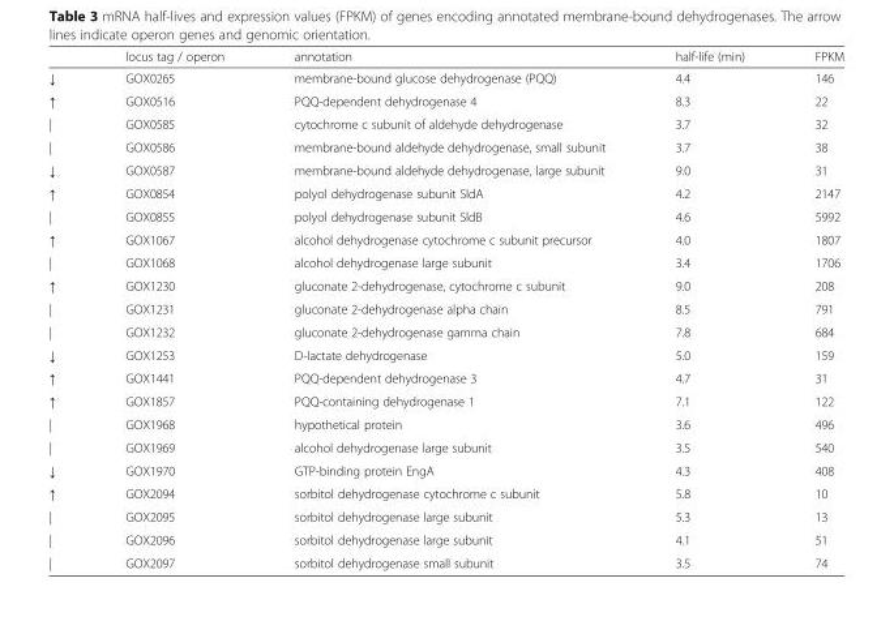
<table><thead><tr><td></td><td>locus tag / operon</td><td>annotation</td><td>half-life (min)</td><td>FPKM</td></tr></thead><tbody><tr><td>↓</td><td>GOX0265</td><td>membrane-bound glucose dehydrogenase (PQQ)</td><td>4.4</td><td>146</td></tr><tr><td>↑</td><td>GOX0516</td><td>PQQ-dependent dehydrogenase 4</td><td>8.3</td><td>22</td></tr><tr><td>|</td><td>GOX0585</td><td>cytochrome c subunit of aldehyde dehydrogenase</td><td>3.7</td><td>32</td></tr><tr><td>|</td><td>GOX0586</td><td>membrane-bound aldehyde dehydrogenase, small subunit</td><td>3.7</td><td>38</td></tr><tr><td>↓</td><td>GOX0587</td><td>membrane-bound aldehyde dehydrogenase, large subunit</td><td>9.0</td><td>31</td></tr><tr><td>↑</td><td>GOX0854</td><td>polyol dehydrogenase subunit SldA</td><td>4.2</td><td>2147</td></tr><tr><td>|</td><td>GOX0855</td><td>polyol dehydrogenase subunit SldB</td><td>4.6</td><td>5992</td></tr><tr><td>↑</td><td>GOX1067</td><td>alcohol dehydrogenase cytochrome c subunit precursor</td><td>4.0</td><td>1807</td></tr><tr><td>|</td><td>GOX1068</td><td>alcohol dehydrogenase large subunit</td><td>3.4</td><td>1706</td></tr><tr><td>↑</td><td>GOX1230</td><td>gluconate 2-dehydrogenase, cytochrome c subunit</td><td>9.0</td><td>208</td></tr><tr><td>|</td><td>GOX1231</td><td>gluconate 2-dehydrogenase alpha chain</td><td>8.5</td><td>791</td></tr><tr><td>|</td><td>GOX1232</td><td>gluconate 2-dehydrogenase gamma chain</td><td>7.8</td><td>684</td></tr><tr><td>↓</td><td>GOX1253</td><td>D-lactate dehydrogenase</td><td>5.0</td><td>159</td></tr><tr><td>↑</td><td>GOX1441</td><td>PQQ-dependent dehydrogenase 3</td><td>4.7</td><td>31</td></tr><tr><td>↑</td><td>GOX1857</td><td>PQQ-containing dehydrogenase 1</td><td>7.1</td><td>122</td></tr><tr><td>|</td><td>GOX1968</td><td>hypothetical protein</td><td>3.6</td><td>496</td></tr><tr><td>|</td><td>GOX1969</td><td>alcohol dehydrogenase large subunit</td><td>3.5</td><td>540</td></tr><tr><td>↓</td><td>GOX1970</td><td>GTP-binding protein EngA</td><td>4.3</td><td>408</td></tr><tr><td>↑</td><td>GOX2094</td><td>sorbitol dehydrogenase cytochrome c subunit</td><td>5.8</td><td>10</td></tr><tr><td>|</td><td>GOX2095</td><td>sorbitol dehydrogenase large subunit</td><td>5.3</td><td>13</td></tr><tr><td>|</td><td>GOX2096</td><td>sorbitol dehydrogenase large subunit</td><td>4.1</td><td>51</td></tr><tr><td>|</td><td>GOX2097</td><td>sorbitol dehydrogenase small subunit</td><td>3.5</td><td>74</td></tr></tbody></table>